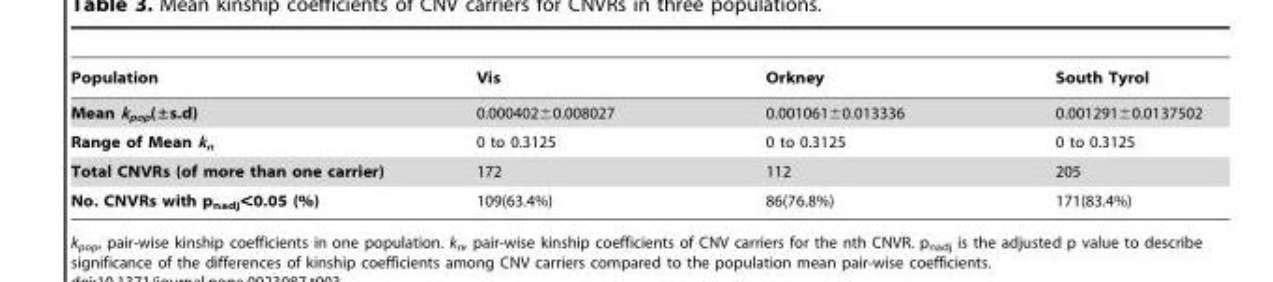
<table><thead><tr><td>Population</td><td>Vis</td><td>Orkney</td><td>South Tyrol</td></tr></thead><tbody><tr><td>Mean k<sub>pop</sub>(±s.d)</td><td>0.000402±0.008027</td><td>0.001061±0.013336</td><td>0.001291±0.0137502</td></tr><tr><td>Range of Mean k<sub>n</sub></td><td>0 to 0.3125</td><td>0 to 0.3125</td><td>0 to 0.3125</td></tr><tr><td>Total CNVRs (of more than one carrier)</td><td>172</td><td>112</td><td>205</td></tr><tr><td>No. CNVRs with p<sub>nadj</sub>&lt;0.05 (%)</td><td>109(63.4%)</td><td>86(76.8%)</td><td>171(83.4%)</td></tr></tbody></table>